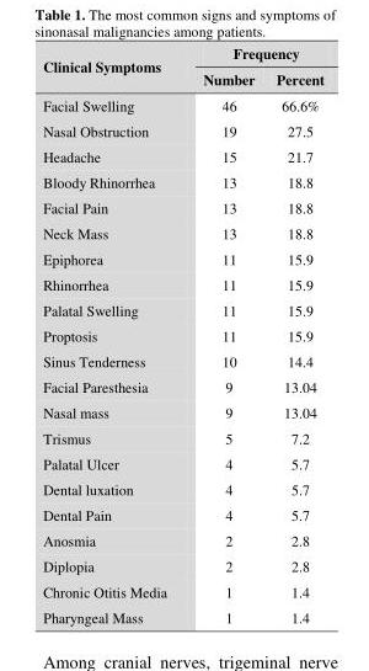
<table><thead><tr><td rowspan="2">Clinical Symptoms</td><td colspan="2">Frequency</td></tr><tr><td>Number</td><td>Percent</td></tr></thead><tbody><tr><td>Facial Swelling</td><td>46</td><td>66.6%</td></tr><tr><td>Nasal Obstruction</td><td>19</td><td>27.5</td></tr><tr><td>Headache</td><td>15</td><td>21.7</td></tr><tr><td>Bloody Rhinorrhea</td><td>13</td><td>18.8</td></tr><tr><td>Facial Pain</td><td>13</td><td>18.8</td></tr><tr><td>Neck Mass</td><td>13</td><td>18.8</td></tr><tr><td>Epiphorea</td><td>11</td><td>15.9</td></tr><tr><td>Rhinorrhea</td><td>11</td><td>15.9</td></tr><tr><td>Palatal Swelling</td><td>11</td><td>15.9</td></tr><tr><td>Proptosis</td><td>11</td><td>15.9</td></tr><tr><td>Sinus Tenderness</td><td>10</td><td>14.4</td></tr><tr><td>Facial Paresthesia</td><td>9</td><td>13.04</td></tr><tr><td>Nasal mass</td><td>9</td><td>13.04</td></tr><tr><td>Trismus</td><td>5</td><td>7.2</td></tr><tr><td>Palatal Ulcer</td><td>4</td><td>5.7</td></tr><tr><td>Dental luxation</td><td>4</td><td>5.7</td></tr><tr><td>Dental Pain</td><td>4</td><td>5.7</td></tr><tr><td>Anosmia</td><td>2</td><td>2.8</td></tr><tr><td>Diplopia</td><td>2</td><td>2.8</td></tr><tr><td>Chronic Otitis Media</td><td>1</td><td>1.4</td></tr><tr><td>Pharyngeal Mass</td><td>1</td><td>1.4</td></tr></tbody></table>